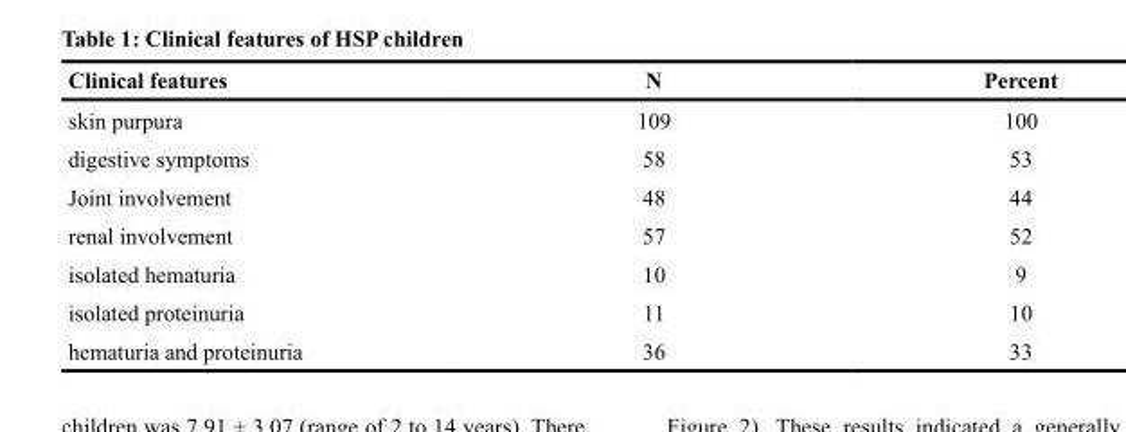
<table><thead><tr><td>Clinical features</td><td>N</td><td>Percent</td></tr></thead><tbody><tr><td>skin purpura</td><td>109</td><td>100</td></tr><tr><td>digestive symptoms</td><td>58</td><td>53</td></tr><tr><td>Joint involvement</td><td>48</td><td>44</td></tr><tr><td>renal involvement</td><td>57</td><td>52</td></tr><tr><td>isolated hematuria</td><td>10</td><td>9</td></tr><tr><td>isolated proteinuria</td><td>11</td><td>10</td></tr><tr><td>hematuria and proteinuria</td><td>36</td><td>33</td></tr></tbody></table>